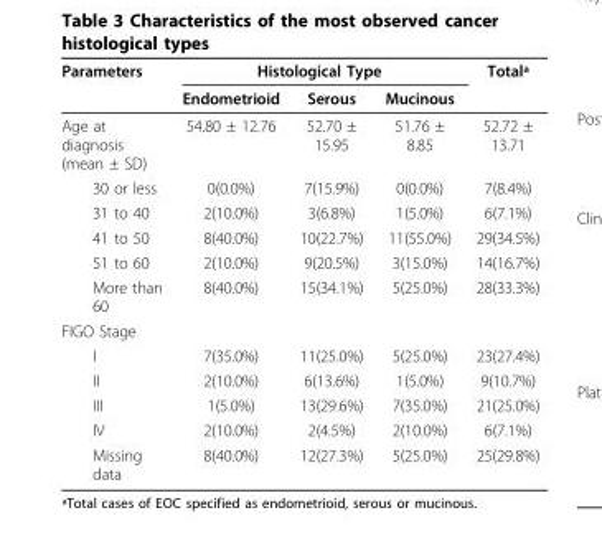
<table><thead><tr><td rowspan="2">Parameters</td><td colspan="3">Histological Type</td><td rowspan="2">Totalª</td></tr><tr><td>Endometrioid</td><td>Serous</td><td>Mucinous</td></tr></thead><tbody><tr><td>Age at diagnosis (mean ± SD)</td><td>54.80 ± 12.76</td><td>52.70 ± 15.95</td><td>51.76 ± 8.85</td><td>52.72 ± 13.71</td></tr><tr><td>30 or less</td><td>0(0.0%)</td><td>7(15.9%)</td><td>0(0.0%)</td><td>7(8.4%)</td></tr><tr><td>31 to 40</td><td>2(10.0%)</td><td>3(6.8%)</td><td>1(5.0%)</td><td>6(7.1%)</td></tr><tr><td>41 to 50</td><td>8(40.0%)</td><td>10(22.7%)</td><td>11(55.0%)</td><td>29(34.5%)</td></tr><tr><td>51 to 60</td><td>2(10.0%)</td><td>9(20.5%)</td><td>3(15.0%)</td><td>14(16.7%)</td></tr><tr><td>More than 60</td><td>8(40.0%)</td><td>15(34.1%)</td><td>5(25.0%)</td><td>28(33.3%)</td></tr><tr><td colspan="5">FIGO Stage</td></tr><tr><td>I</td><td>7(35.0%)</td><td>11(25.0%)</td><td>5(25.0%)</td><td>23(27.4%)</td></tr><tr><td>II</td><td>2(10.0%)</td><td>6(13.6%)</td><td>1(5.0%)</td><td>9(10.7%)</td></tr><tr><td>III</td><td>1(5.0%)</td><td>13(29.6%)</td><td>7(35.0%)</td><td>21(25.0%)</td></tr><tr><td>IV</td><td>2(10.0%)</td><td>2(4.5%)</td><td>2(10.0%)</td><td>6(7.1%)</td></tr><tr><td>Missing data</td><td>8(40.0%)</td><td>12(27.3%)</td><td>5(25.0%)</td><td>25(29.8%)</td></tr></tbody></table>